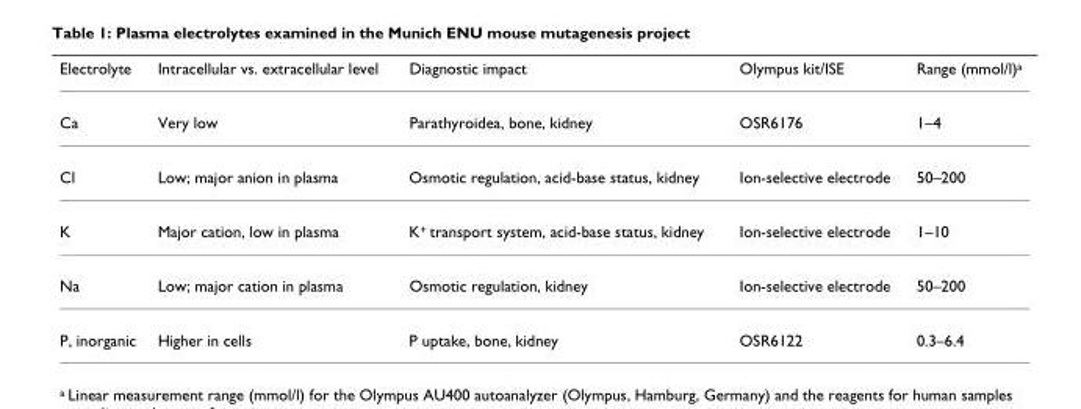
<table><thead><tr><td>Electrolyte</td><td>Intracellular vs. extracellular level</td><td>Diagnostic impact</td><td>Olympus kit/ISE</td><td>Range (mmol/l)<sup>a</sup></td></tr></thead><tbody><tr><td>Ca</td><td>Very low</td><td>Parathyroidea, bone, kidney</td><td>OSR6176</td><td>1–4</td></tr><tr><td>Cl</td><td>Low; major anion in plasma</td><td>Osmotic regulation, acid-base status, kidney</td><td>Ion-selective electrode</td><td>50–200</td></tr><tr><td>K</td><td>Major cation, low in plasma</td><td>K<sup>+</sup> transport system, acid-base status, kidney</td><td>Ion-selective electrode</td><td>1–10</td></tr><tr><td>Na</td><td>Low; major cation in plasma</td><td>Osmotic regulation, kidney</td><td>Ion-selective electrode</td><td>50–200</td></tr><tr><td>P, inorganic</td><td>Higher in cells</td><td>P uptake, bone, kidney</td><td>OSR6122</td><td>0.3–6.4</td></tr></tbody></table>